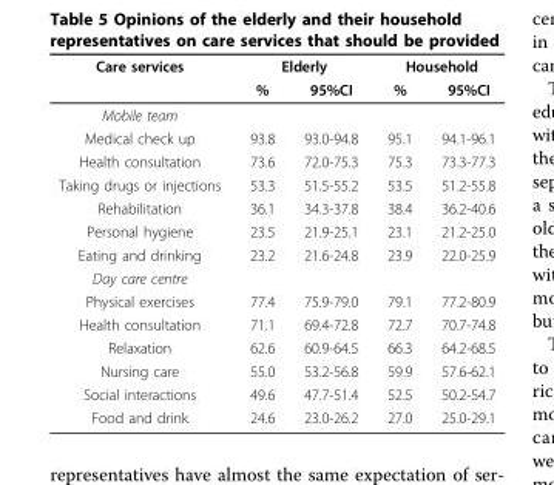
<table><thead><tr><td rowspan="2">Care services</td><td colspan="2">Elderly</td><td colspan="2">Household</td></tr><tr><td>%</td><td>95%CI</td><td>%</td><td>95%CI</td></tr></thead><tbody><tr><td colspan="5">Mobile team</td></tr><tr><td>Medical check up</td><td>93.8</td><td>93.0-94.8</td><td>95.1</td><td>94.1-96.1</td></tr><tr><td>Health consultation</td><td>73.6</td><td>72.0-75.3</td><td>75.3</td><td>73.3-77.3</td></tr><tr><td>Taking drugs or injections</td><td>53.3</td><td>51.5-55.2</td><td>53.5</td><td>51.2-55.8</td></tr><tr><td>Rehabilitation</td><td>36.1</td><td>34.3-37.8</td><td>38.4</td><td>36.2-40.6</td></tr><tr><td>Personal hygiene</td><td>23.5</td><td>21.9-25.1</td><td>23.1</td><td>21.2-25.0</td></tr><tr><td>Eating and drinking</td><td>23.2</td><td>21.6-24.8</td><td>23.9</td><td>22.0-25.9</td></tr><tr><td colspan="5">Day care centre</td></tr><tr><td>Physical exercises</td><td>77.4</td><td>75.9-79.0</td><td>79.1</td><td>77.2-80.9</td></tr><tr><td>Health consultation</td><td>71.1</td><td>69.4-72.8</td><td>72.7</td><td>70.7-74.8</td></tr><tr><td>Relaxation</td><td>62.6</td><td>60.9-64.5</td><td>66.3</td><td>64.2-68.5</td></tr><tr><td>Nursing care</td><td>55.0</td><td>53.2-56.8</td><td>59.9</td><td>57.6-62.1</td></tr><tr><td>Social interactions</td><td>49.6</td><td>47.7-51.4</td><td>52.5</td><td>50.2-54.7</td></tr><tr><td>Food and drink</td><td>24.6</td><td>23.0-26.2</td><td>27.0</td><td>25.0-29.1</td></tr></tbody></table>